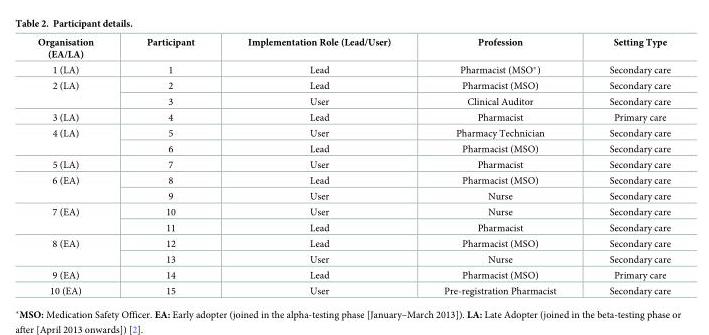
<table><thead><tr><td>Organisation (EA/LA)</td><td>Participant</td><td>Implementation Role (Lead/User)</td><td>Profession</td><td>Setting Type</td></tr></thead><tbody><tr><td>1 (LA)</td><td>1</td><td>Lead</td><td>Pharmacist (MSO*)</td><td>Secondary care</td></tr><tr><td rowspan="2">2 (LA)</td><td>2</td><td>Lead</td><td>Pharmacist (MSO)</td><td>Secondary care</td></tr><tr><td>3</td><td>User</td><td>Clinical Auditor</td><td>Secondary care</td></tr><tr><td>3 (LA)</td><td>4</td><td>Lead</td><td>Pharmacist</td><td>Primary care</td></tr><tr><td rowspan="2">4 (LA)</td><td>5</td><td>User</td><td>Pharmacy Technician</td><td>Secondary care</td></tr><tr><td>6</td><td>Lead</td><td>Pharmacist (MSO)</td><td>Secondary care</td></tr><tr><td>5 (LA)</td><td>7</td><td>User</td><td>Pharmacist</td><td>Secondary care</td></tr><tr><td rowspan="2">6 (EA)</td><td>8</td><td>Lead</td><td>Pharmacist (MSO)</td><td>Secondary care</td></tr><tr><td>9</td><td>User</td><td>Nurse</td><td>Secondary care</td></tr><tr><td rowspan="2">7 (EA)</td><td>10</td><td>User</td><td>Nurse</td><td>Secondary care</td></tr><tr><td>11</td><td>Lead</td><td>Pharmacist</td><td>Secondary care</td></tr><tr><td rowspan="2">8 (EA)</td><td>12</td><td>Lead</td><td>Pharmacist (MSO)</td><td>Secondary care</td></tr><tr><td>13</td><td>User</td><td>Nurse</td><td>Secondary care</td></tr><tr><td>9 (EA)</td><td>14</td><td>Lead</td><td>Pharmacist (MSO)</td><td>Primary care</td></tr><tr><td>10 (EA)</td><td>15</td><td>User</td><td>Pre-registration Pharmacist</td><td>Secondary care</td></tr></tbody></table>